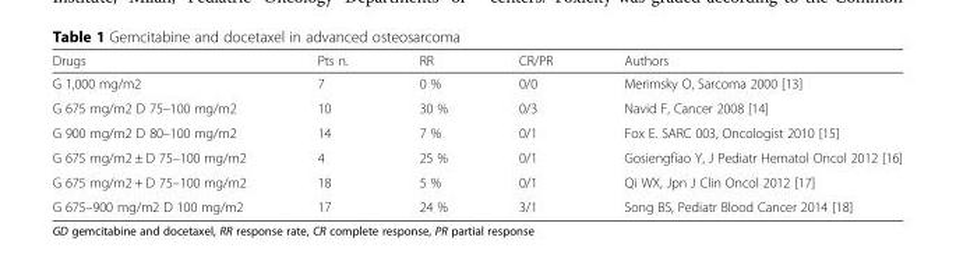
<table><thead><tr><td>Drugs</td><td>Pts n.</td><td>RR</td><td>CR/PR</td><td>Authors</td></tr></thead><tbody><tr><td>G 1,000 mg/m2</td><td>7</td><td>0 %</td><td>0/0</td><td>Merimsky O, Sarcoma 2000 [13]</td></tr><tr><td>G 675 mg/m2 D 75–100 mg/m2</td><td>10</td><td>30 %</td><td>0/3</td><td>Navid F, Cancer 2008 [14]</td></tr><tr><td>G 900 mg/m2 D 80–100 mg/m2</td><td>14</td><td>7 %</td><td>0/1</td><td>Fox E. SARC 003, Oncologist 2010 [15]</td></tr><tr><td>G 675 mg/m2 ± D 75–100 mg/m2</td><td>4</td><td>25 %</td><td>0/1</td><td>Gosiengfiao Y, J Pediatr Hematol Oncol 2012 [16]</td></tr><tr><td>G 675 mg/m2 + D 75–100 mg/m2</td><td>18</td><td>5 %</td><td>0/1</td><td>Qi WX, Jpn J Clin Oncol 2012 [17]</td></tr><tr><td>G 675–900 mg/m2 D 100 mg/m2</td><td>17</td><td>24 %</td><td>3/1</td><td>Song BS, Pediatr Blood Cancer 2014 [18]</td></tr></tbody></table>